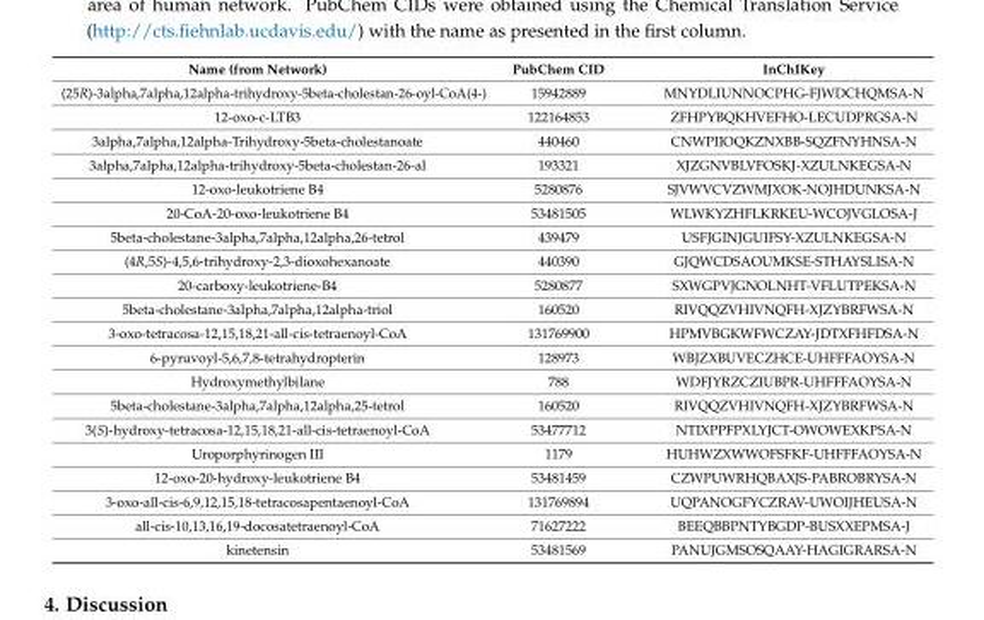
<table><thead><tr><td>Name (from Network)</td><td>PubChem CID</td><td>InChIKey</td></tr></thead><tbody><tr><td>(25R)-3alpha,7alpha,12alpha-trihydroxy-5beta-cholestan-26-oyl-CoA(4-)</td><td>15942889</td><td>MNYDLIUNNOCPHG-FJWDCHQMSA-N</td></tr><tr><td>12-oxo-c-LTB3</td><td>122164853</td><td>ZFHPYBQKHVEFHO-LECUDPRGSA-N</td></tr><tr><td>3alpha,7alpha,12alpha-Trihydroxy-5beta-cholestanoate</td><td>440460</td><td>CNWPIIOQKZNXBB-SQZFNYHNSA-N</td></tr><tr><td>3alpha,7alpha,12alpha-trihydroxy-5beta-cholestan-26-al</td><td>193321</td><td>XJZGNVBLVFOSKJ-XZULNKEGSA-N</td></tr><tr><td>12-oxo-leukotriene B4</td><td>5280876</td><td>SJVWVCVZWMJXOK-NOJHDUNKSA-N</td></tr><tr><td>20-CoA-20-oxo-leukotriene B4</td><td>53481505</td><td>WLWKYZHFLKRKEU-WCOJVGLOSA-J</td></tr><tr><td>5beta-cholestane-3alpha,7alpha,12alpha,26-tetrol</td><td>439479</td><td>USFJGINJGUIFSY-XZULNKEGSA-N</td></tr><tr><td>(4R,5S)-4,5,6-trihydroxy-2,3-dioxohexanoate</td><td>440390</td><td>GJQWCDSAOUMKSE-STHAYSLISA-N</td></tr><tr><td>20-carboxy-leukotriene-B4</td><td>5280877</td><td>SXWGPVJGNOLNHT-VFLUTPEKSA-N</td></tr><tr><td>5beta-cholestane-3alpha,7alpha,12alpha-triol</td><td>160520</td><td>RIVQQZVHIVNQFH-XJZYBRFWSA-N</td></tr><tr><td>3-oxo-tetracosa-12,15,18,21-all-cis-tetraenoyl-CoA</td><td>131769900</td><td>HPMVBGKWFWCZAY-JDTXFHFDSA-N</td></tr><tr><td>6-pyruvoyl-5,6,7,8-tetrahydropterin</td><td>128973</td><td>WBJZXBUVECZHCE-UHFFFAOYSA-N</td></tr><tr><td>Hydroxymethylbilane</td><td>788</td><td>WDFJYRZCZIUBPR-UHFFFAOYSA-N</td></tr><tr><td>5beta-cholestane-3alpha,7alpha,12alpha,25-tetrol</td><td>160520</td><td>RIVQQZVHIVNQFH-XJZYBRFWSA-N</td></tr><tr><td>3(S)-hydroxy-tetracosa-12,15,18,21-all-cis-tetraenoyl-CoA</td><td>53477712</td><td>NTIXPPFPXLYJCT-OWOWEXKPSA-N</td></tr><tr><td>Uroporphyrinogen III</td><td>1179</td><td>HUHWZXWWOFSFKF-UHFFFAOYSA-N</td></tr><tr><td>12-oxo-20-hydroxy-leukotriene B4</td><td>53481459</td><td>CZWPUWRHQBAXJS-PABROBRYSA-N</td></tr><tr><td>3-oxo-all-cis-6,9,12,15,18-tetracosapentaenoyl-CoA</td><td>131769894</td><td>UQPANOGFYCZRAV-UWOIJHEUSA-N</td></tr><tr><td>all-cis-10,13,16,19-docosatetraenoyl-CoA</td><td>71627222</td><td>BEEQBBPNTYBGDP-BUSXXEPMSA-J</td></tr><tr><td>kinetensin</td><td>53481569</td><td>PANUJGMSOSQAAY-HAGIGRARSA-N</td></tr></tbody></table>